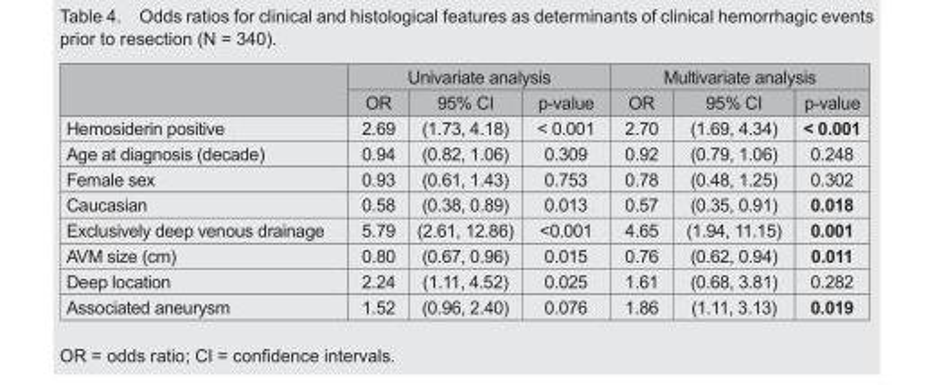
<table><thead><tr><td rowspan="2"></td><td colspan="3">Univariate analysis</td><td colspan="3">Multivariate analysis</td></tr><tr><td>OR</td><td>95% CI</td><td>p-value</td><td>OR</td><td>95% CI</td><td>p-value</td></tr></thead><tbody><tr><td>Hemosiderin positive</td><td>2.69</td><td>(1.73, 4.18)</td><td>&lt; 0.001</td><td>2.70</td><td>(1.69, 4.34)</td><td>&lt; 0.001</td></tr><tr><td>Age at diagnosis (decade)</td><td>0.94</td><td>(0.82, 1.06)</td><td>0.309</td><td>0.92</td><td>(0.79, 1.06)</td><td>0.248</td></tr><tr><td>Female sex</td><td>0.93</td><td>(0.61, 1.43)</td><td>0.753</td><td>0.78</td><td>(0.48, 1.25)</td><td>0.302</td></tr><tr><td>Caucasian</td><td>0.58</td><td>(0.38, 0.89)</td><td>0.013</td><td>0.57</td><td>(0.35, 0.91)</td><td>0.018</td></tr><tr><td>Exclusively deep venous drainage</td><td>5.79</td><td>(2.61, 12.86)</td><td>&lt;0.001</td><td>4.65</td><td>(1.94, 11.15)</td><td>0.001</td></tr><tr><td>AVM size (cm)</td><td>0.80</td><td>(0.67, 0.96)</td><td>0.015</td><td>0.76</td><td>(0.62, 0.94)</td><td>0.011</td></tr><tr><td>Deep location</td><td>2.24</td><td>(1.11, 4.52)</td><td>0.025</td><td>1.61</td><td>(0.68, 3.81)</td><td>0.282</td></tr><tr><td>Associated aneurysm</td><td>1.52</td><td>(0.96, 2.40)</td><td>0.076</td><td>1.86</td><td>(1.11, 3.13)</td><td>0.019</td></tr></tbody></table>